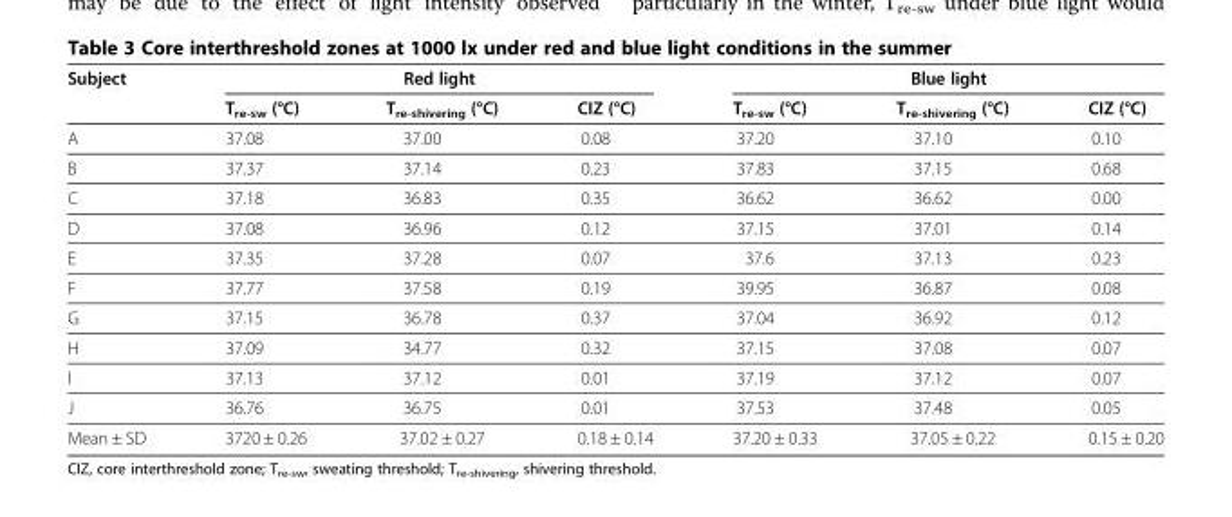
<table><thead><tr><td rowspan="2">Subject</td><td colspan="3">Red light</td><td colspan="3">Blue light</td></tr><tr><td>T<sub>re-sw</sub> (°C)</td><td>T<sub>re-shivering</sub> (°C)</td><td>CIZ (°C)</td><td>T<sub>re-sw</sub> (°C)</td><td>T<sub>re-shivering</sub> (°C)</td><td>CIZ (°C)</td></tr></thead><tbody><tr><td>A</td><td>37.08</td><td>37.00</td><td>0.08</td><td>37.20</td><td>37.10</td><td>0.10</td></tr><tr><td>B</td><td>37.37</td><td>37.14</td><td>0.23</td><td>37.83</td><td>37.15</td><td>0.68</td></tr><tr><td>C</td><td>37.18</td><td>36.83</td><td>0.35</td><td>36.62</td><td>36.62</td><td>0.00</td></tr><tr><td>D</td><td>37.08</td><td>36.96</td><td>0.12</td><td>37.15</td><td>37.01</td><td>0.14</td></tr><tr><td>E</td><td>37.35</td><td>37.28</td><td>0.07</td><td>37.6</td><td>37.13</td><td>0.23</td></tr><tr><td>F</td><td>37.77</td><td>37.58</td><td>0.19</td><td>39.95</td><td>36.87</td><td>0.08</td></tr><tr><td>G</td><td>37.15</td><td>36.78</td><td>0.37</td><td>37.04</td><td>36.92</td><td>0.12</td></tr><tr><td>H</td><td>37.09</td><td>34.77</td><td>0.32</td><td>37.15</td><td>37.08</td><td>0.07</td></tr><tr><td>I</td><td>37.13</td><td>37.12</td><td>0.01</td><td>37.19</td><td>37.12</td><td>0.07</td></tr><tr><td>J</td><td>36.76</td><td>36.75</td><td>0.01</td><td>37.53</td><td>37.48</td><td>0.05</td></tr><tr><td>Mean ± SD</td><td>3720 ± 0.26</td><td>37.02 ± 0.27</td><td>0.18 ± 0.14</td><td>37.20 ± 0.33</td><td>37.05 ± 0.22</td><td>0.15 ± 0.20</td></tr></tbody></table>